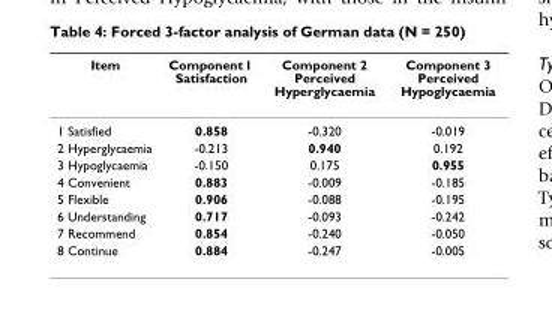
<table><thead><tr><td>Item</td><td>Component 1 Satisfaction</td><td>Component 2 Perceived Hyperglycaemia</td><td>Component 3 Perceived Hypoglycaemia</td></tr></thead><tbody><tr><td>1 Satisfied</td><td>0.858</td><td>-0.320</td><td>-0.019</td></tr><tr><td>2 Hyperglycaemia</td><td>-0.213</td><td>0.940</td><td>0.192</td></tr><tr><td>3 Hypoglycaemia</td><td>-0.150</td><td>0.175</td><td>0.955</td></tr><tr><td>4 Convenient</td><td>0.883</td><td>-0.009</td><td>-0.185</td></tr><tr><td>5 Flexible</td><td>0.906</td><td>-0.088</td><td>-0.195</td></tr><tr><td>6 Understanding</td><td>0.717</td><td>-0.093</td><td>-0.242</td></tr><tr><td>7 Recommend</td><td>0.854</td><td>-0.240</td><td>-0.050</td></tr><tr><td>8 Continue</td><td>0.884</td><td>-0.247</td><td>-0.005</td></tr></tbody></table>